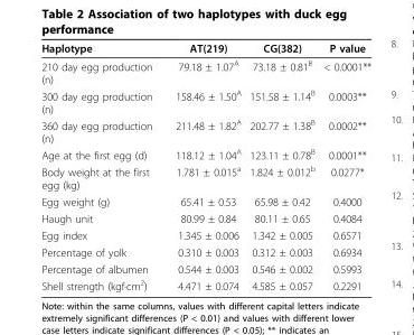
<table><thead><tr><td>Haplotype</td><td>AT(219)</td><td>CG(382)</td><td>P value</td></tr></thead><tbody><tr><td>210 day egg production (n)</td><td>79.18 ± 1.07<sup>A</sup></td><td>73.18 ± 0.81<sup>B</sup></td><td>&lt; 0.0001**</td></tr><tr><td>300 day egg production (n)</td><td>158.46 ± 1.50<sup>A</sup></td><td>151.58 ± 1.14<sup>B</sup></td><td>0.0003**</td></tr><tr><td>360 day egg production (n)</td><td>211.48 ± 1.82<sup>A</sup></td><td>202.77 ± 1.38<sup>B</sup></td><td>0.0002**</td></tr><tr><td>Age at the first egg (d)</td><td>118.12 ± 1.04<sup>A</sup></td><td>123.11 ± 0.78<sup>B</sup></td><td>0.0001**</td></tr><tr><td>Body weight at the first egg (kg)</td><td>1.781 ± 0.015<sup>a</sup></td><td>1.824 ± 0.012<sup>b</sup></td><td>0.0277*</td></tr><tr><td>Egg weight (g)</td><td>65.41 ± 0.53</td><td>65.98 ± 0.42</td><td>0.4000</td></tr><tr><td>Haugh unit</td><td>80.99 ± 0.84</td><td>80.11 ± 0.65</td><td>0.4084</td></tr><tr><td>Egg index</td><td>1.345 ± 0.006</td><td>1.342 ± 0.005</td><td>0.6571</td></tr><tr><td>Percentage of yolk</td><td>0.310 ± 0.003</td><td>0.312 ± 0.003</td><td>0.6934</td></tr><tr><td>Percentage of albumen</td><td>0.544 ± 0.003</td><td>0.546 ± 0.002</td><td>0.5993</td></tr><tr><td>Shell strength (kgf·cm<sup>2</sup>)</td><td>4.471 ± 0.074</td><td>4.585 ± 0.057</td><td>0.2291</td></tr></tbody></table>